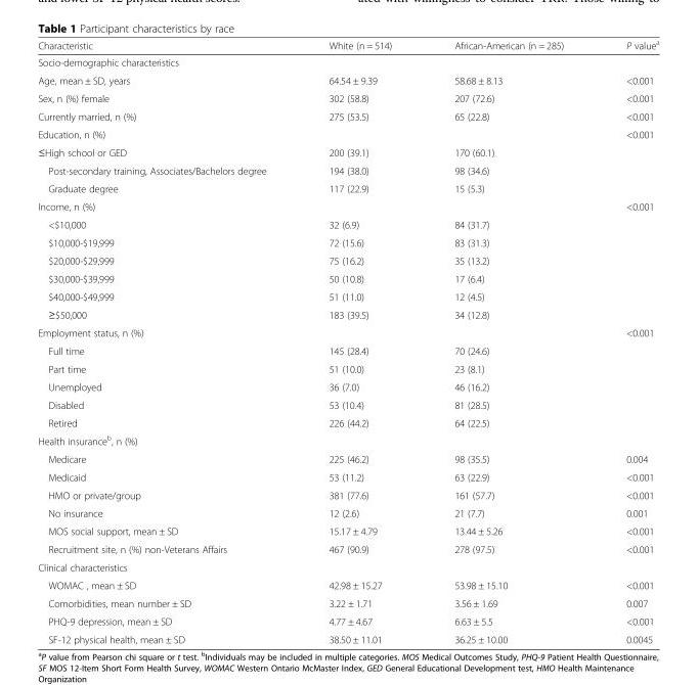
<table><thead><tr><td>Characteristic</td><td>White (n = 514)</td><td>African-American (n = 285)</td><td>P value<sup>a</sup></td></tr></thead><tbody><tr><td colspan="4">Socio-demographic characteristics</td></tr><tr><td>Age, mean ± SD, years</td><td>64.54 ± 9.39</td><td>58.68 ± 8.13</td><td>&lt;0.001</td></tr><tr><td>Sex, n (%) female</td><td>302 (58.8)</td><td>207 (72.6)</td><td>&lt;0.001</td></tr><tr><td>Currently married, n (%)</td><td>275 (53.5)</td><td>65 (22.8)</td><td>&lt;0.001</td></tr><tr><td colspan="3">Education, n (%)</td><td rowspan="4">&lt;0.001</td></tr><tr><td>≤High school or GED</td><td>200 (39.1)</td><td>170 (60.1)</td></tr><tr><td>Post-secondary training, Associates/Bachelors degree</td><td>194 (38.0)</td><td>98 (34.6)</td></tr><tr><td>Graduate degree</td><td>117 (22.9)</td><td>15 (5.3)</td></tr><tr><td colspan="3">Income, n (%)</td><td rowspan="7">&lt;0.001</td></tr><tr><td>&lt;$10,000</td><td>32 (6.9)</td><td>84 (31.7)</td></tr><tr><td>$10,000-$19,999</td><td>72 (15.6)</td><td>83 (31.3)</td></tr><tr><td>$20,000-$29,999</td><td>75 (16.2)</td><td>35 (13.2)</td></tr><tr><td>$30,000-$39,999</td><td>50 (10.8)</td><td>17 (6.4)</td></tr><tr><td>$40,000-$49,999</td><td>51 (11.0)</td><td>12 (4.5)</td></tr><tr><td>≥$50,000</td><td>183 (39.5)</td><td>34 (12.8)</td></tr><tr><td colspan="3">Employment status, n (%)</td><td rowspan="6">&lt;0.001</td></tr><tr><td>Full time</td><td>145 (28.4)</td><td>70 (24.6)</td></tr><tr><td>Part time</td><td>51 (10.0)</td><td>23 (8.1)</td></tr><tr><td>Unemployed</td><td>36 (7.0)</td><td>46 (16.2)</td></tr><tr><td>Disabled</td><td>53 (10.4)</td><td>81 (28.5)</td></tr><tr><td>Retired</td><td>226 (44.2)</td><td>64 (22.5)</td></tr><tr><td colspan="4">Health insurance<sup>b</sup>, n (%)</td></tr><tr><td>Medicare</td><td>225 (46.2)</td><td>98 (35.5)</td><td>0.004</td></tr><tr><td>Medicaid</td><td>53 (11.2)</td><td>63 (22.9)</td><td>&lt;0.001</td></tr><tr><td>HMO or private/group</td><td>381 (77.6)</td><td>161 (57.7)</td><td>&lt;0.001</td></tr><tr><td>No insurance</td><td>12 (2.6)</td><td>21 (7.7)</td><td>0.001</td></tr><tr><td>MOS social support, mean ± SD</td><td>15.17 ± 4.79</td><td>13.44 ± 5.26</td><td>&lt;0.001</td></tr><tr><td>Recruitment site, n (%) non-Veterans Affairs</td><td>467 (90.9)</td><td>278 (97.5)</td><td>&lt;0.001</td></tr><tr><td colspan="4">Clinical characteristics</td></tr><tr><td>WOMAC , mean ± SD</td><td>42.98 ± 15.27</td><td>53.98 ± 15.10</td><td>&lt;0.001</td></tr><tr><td>Comorbidities, mean number ± SD</td><td>3.22 ± 1.71</td><td>3.56 ± 1.69</td><td>0.007</td></tr><tr><td>PHQ-9 depression, mean ± SD</td><td>4.77 ± 4.67</td><td>6.63 ± 5.5</td><td>&lt;0.001</td></tr><tr><td>SF-12 physical health, mean ± SD</td><td>38.50 ± 11.01</td><td>36.25 ± 10.00</td><td>0.0045</td></tr></tbody></table>